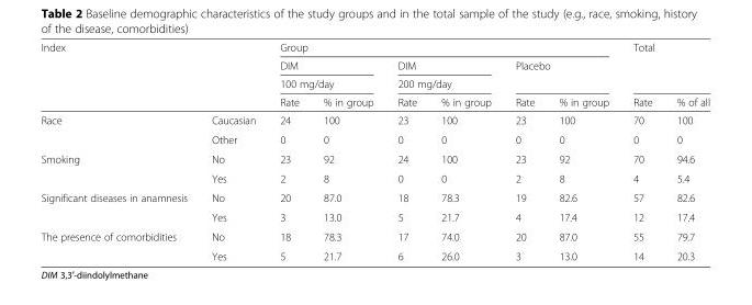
<table><thead><tr><td rowspan="4" colspan="2">Index</td><td colspan="6">Group</td><td rowspan="3" colspan="2">Total</td></tr><tr><td rowspan="2" colspan="2">DIM 100 mg/day</td><td rowspan="2" colspan="2">DIM 200 mg/day</td><td rowspan="2" colspan="2">Placebo</td></tr><tr></tr><tr><td rowspan="2">Rate 24</td><td rowspan="2">% in group 100</td><td rowspan="2">Rate 23</td><td rowspan="2">% in group 100</td><td rowspan="2">Rate 23</td><td rowspan="2">% in group 100</td><td rowspan="2">Rate 70</td><td rowspan="2">% of all 100</td></tr><tr><td>Race</td><td>Caucasian</td></tr></thead><tbody><tr><td></td><td>Other</td><td>0</td><td>0</td><td>0</td><td>0</td><td>0</td><td>0</td><td>0</td><td>0</td></tr><tr><td rowspan="2">Smoking</td><td>No</td><td>23</td><td>92</td><td>24</td><td>100</td><td>23</td><td>92</td><td>70</td><td>94.6</td></tr><tr><td>Yes</td><td>2</td><td>8</td><td>0</td><td>0</td><td>2</td><td>8</td><td>4</td><td>5.4</td></tr><tr><td rowspan="2">Significant diseases in anamnesis</td><td>No</td><td>20</td><td>87.0</td><td>18</td><td>78.3</td><td>19</td><td>82.6</td><td>57</td><td>82.6</td></tr><tr><td>Yes</td><td>3</td><td>13.0</td><td>5</td><td>21.7</td><td>4</td><td>17.4</td><td>12</td><td>17.4</td></tr><tr><td rowspan="2">The presence of comorbidities</td><td>No</td><td>18</td><td>78.3</td><td>17</td><td>74.0</td><td>20</td><td>87.0</td><td>55</td><td>79.7</td></tr><tr><td>Yes</td><td>5</td><td>21.7</td><td>6</td><td>26.0</td><td>3</td><td>13.0</td><td>14</td><td>20.3</td></tr></tbody></table>